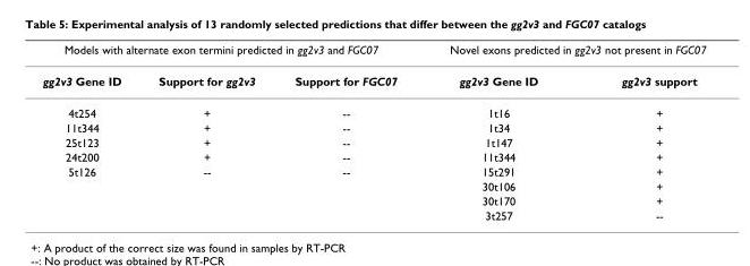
<table><thead><tr><td colspan="3">Models with alternate exon termini predicted in gg2v3 and FGC07</td><td colspan="2">Novel exons predicted in gg2v3 not present in FGC07</td></tr><tr><td>gg2v3 Gene ID</td><td>Support for gg2v3</td><td>Support for FGC07</td><td>gg2v3 Gene ID</td><td>gg2v3 support</td></tr></thead><tbody><tr><td>4t254</td><td>+</td><td>--</td><td>1t16</td><td>+</td></tr><tr><td>11t344</td><td>+</td><td>--</td><td>1t34</td><td>+</td></tr><tr><td>25t123</td><td>+</td><td>--</td><td>1t147</td><td>+</td></tr><tr><td>24t200</td><td>+</td><td>--</td><td>11t344</td><td>+</td></tr><tr><td rowspan="4">5t126</td><td>--</td><td>--</td><td>15t291</td><td>+</td></tr><tr><td></td><td></td><td>30t106</td><td>+</td></tr><tr><td></td><td></td><td>30t170</td><td>+</td></tr><tr><td></td><td></td><td>3t257</td><td>--</td></tr></tbody></table>